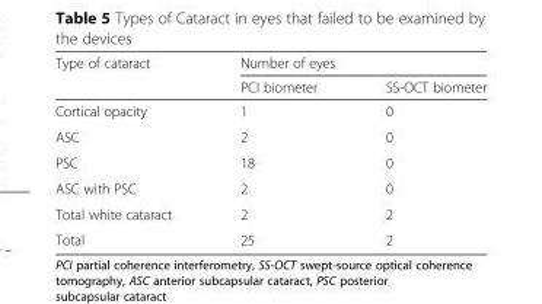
<table><thead><tr><td rowspan="2">Type of cataract</td><td colspan="2">Number of eyes</td></tr><tr><td>PCI biometer</td><td>SS-OCT biometer</td></tr></thead><tbody><tr><td>Cortical opacity</td><td>1</td><td>0</td></tr><tr><td>ASC</td><td>2</td><td>0</td></tr><tr><td>PSC</td><td>18</td><td>0</td></tr><tr><td>ASC with PSC</td><td>2</td><td>0</td></tr><tr><td>Total white cataract</td><td>2</td><td>2</td></tr><tr><td>Total</td><td>25</td><td>2</td></tr></tbody></table>